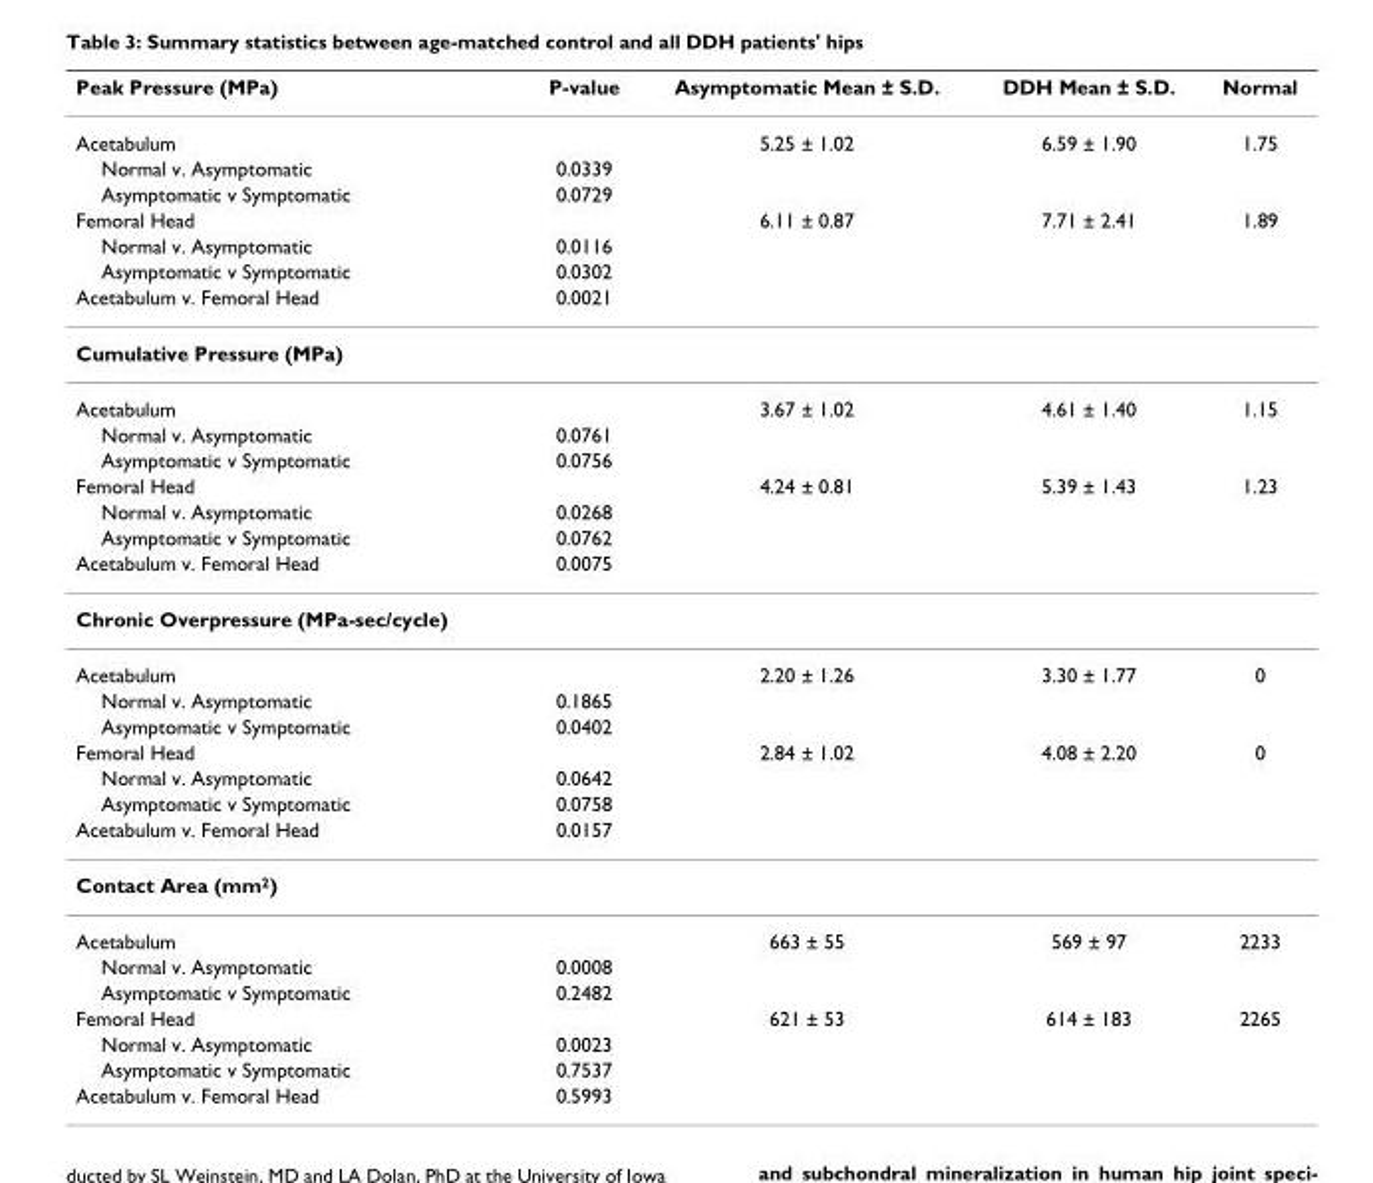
<table><thead><tr><td>Peak Pressure (MPa)</td><td>P-value</td><td>Asymptomatic Mean ± S.D.</td><td>DDH Mean ± S.D.</td><td>Normal</td></tr></thead><tbody><tr><td>Acetabulum</td><td></td><td>5.25 ± 1.02</td><td>6.59 ± 1.90</td><td>1.75</td></tr><tr><td>Normal v. Asymptomatic</td><td>0.0339</td><td></td><td></td><td></td></tr><tr><td>Asymptomatic v Symptomatic</td><td>0.0729</td><td></td><td></td><td></td></tr><tr><td>Femoral Head</td><td></td><td>6.11 ± 0.87</td><td>7.71 ± 2.41</td><td>1.89</td></tr><tr><td>Normal v. Asymptomatic</td><td>0.0116</td><td></td><td></td><td></td></tr><tr><td>Asymptomatic v Symptomatic</td><td>0.0302</td><td></td><td></td><td></td></tr><tr><td>Acetabulum v. Femoral Head</td><td>0.0021</td><td></td><td></td><td></td></tr><tr><td colspan="5">Cumulative Pressure (MPa)</td></tr><tr><td>Acetabulum</td><td></td><td>3.67 ± 1.02</td><td>4.61 ± 1.40</td><td>1.15</td></tr><tr><td>Normal v. Asymptomatic</td><td>0.0761</td><td></td><td></td><td></td></tr><tr><td>Asymptomatic v Symptomatic</td><td>0.0756</td><td></td><td></td><td></td></tr><tr><td>Femoral Head</td><td></td><td>4.24 ± 0.81</td><td>5.39 ± 1.43</td><td>1.23</td></tr><tr><td>Normal v. Asymptomatic</td><td>0.0268</td><td></td><td></td><td></td></tr><tr><td>Asymptomatic v Symptomatic</td><td>0.0762</td><td></td><td></td><td></td></tr><tr><td>Acetabulum v. Femoral Head</td><td>0.0075</td><td></td><td></td><td></td></tr><tr><td colspan="5">Chronic Overpressure (MPa-sec/cycle)</td></tr><tr><td>Acetabulum</td><td></td><td>2.20 ± 1.26</td><td>3.30 ± 1.77</td><td>0</td></tr><tr><td>Normal v. Asymptomatic</td><td>0.1865</td><td></td><td></td><td></td></tr><tr><td>Asymptomatic v Symptomatic</td><td>0.0402</td><td></td><td></td><td></td></tr><tr><td>Femoral Head</td><td></td><td>2.84 ± 1.02</td><td>4.08 ± 2.20</td><td>0</td></tr><tr><td>Normal v. Asymptomatic</td><td>0.0642</td><td></td><td></td><td></td></tr><tr><td>Asymptomatic v Symptomatic</td><td>0.0758</td><td></td><td></td><td></td></tr><tr><td>Acetabulum v. Femoral Head</td><td>0.0157</td><td></td><td></td><td></td></tr><tr><td colspan="5">Contact Area (mm2)</td></tr><tr><td>Acetabulum</td><td></td><td>663 ± 55</td><td>569 ± 97</td><td>2233</td></tr><tr><td>Normal v. Asymptomatic</td><td>0.0008</td><td></td><td></td><td></td></tr><tr><td>Asymptomatic v Symptomatic</td><td>0.2482</td><td></td><td></td><td></td></tr><tr><td>Femoral Head</td><td></td><td>621 ± 53</td><td>614 ± 183</td><td>2265</td></tr><tr><td>Normal v. Asymptomatic</td><td>0.0023</td><td></td><td></td><td></td></tr><tr><td>Asymptomatic v Symptomatic</td><td>0.7537</td><td></td><td></td><td></td></tr><tr><td>Acetabulum v. Femoral Head</td><td>0.5993</td><td></td><td></td><td></td></tr></tbody></table>